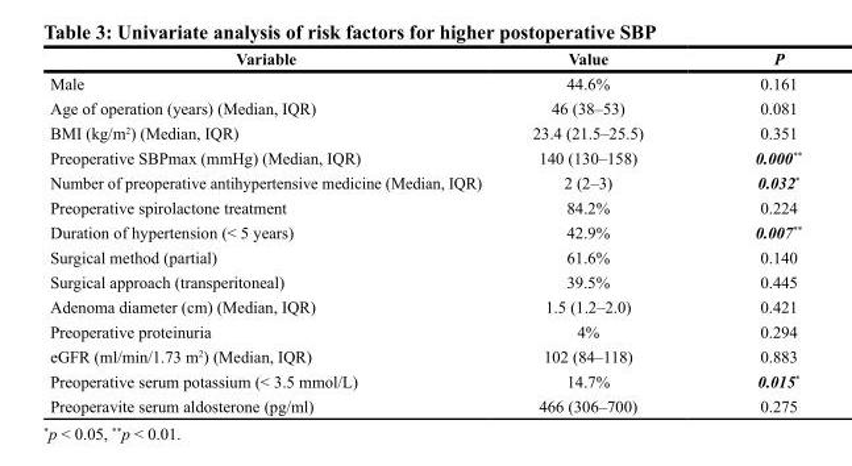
<table><thead><tr><td>Variable</td><td>Value</td><td>P</td></tr></thead><tbody><tr><td>Male</td><td>44.6%</td><td>0.161</td></tr><tr><td>Age of operation (years) (Median, IQR)</td><td>46 (38–53)</td><td>0.081</td></tr><tr><td>BMI (kg/m<sup>2</sup>) (Median, IQR)</td><td>23.4 (21.5–25.5)</td><td>0.351</td></tr><tr><td>Preoperative SBPmax (mmHg) (Median, IQR)</td><td>140 (130–158)</td><td>0.000**</td></tr><tr><td>Number of preoperative antihypertensive medicine (Median, IQR)</td><td>2 (2–3)</td><td>0.032*</td></tr><tr><td>Preoperative spirolactone treatment</td><td>84.2%</td><td>0.224</td></tr><tr><td>Duration of hypertension (&lt; 5 years)</td><td>42.9%</td><td>0.007**</td></tr><tr><td>Surgical method (partial)</td><td>61.6%</td><td>0.140</td></tr><tr><td>Surgical approach (transperitoneal)</td><td>39.5%</td><td>0.445</td></tr><tr><td>Adenoma diameter (cm) (Median, IQR)</td><td>1.5 (1.2–2.0)</td><td>0.421</td></tr><tr><td>Preoperative proteinuria</td><td>4%</td><td>0.294</td></tr><tr><td>eGFR (ml/min/1.73 m<sup>2</sup>) (Median, IQR)</td><td>102 (84–118)</td><td>0.883</td></tr><tr><td>Preoperative serum potassium (&lt; 3.5 mmol/L)</td><td>14.7%</td><td>0.015*</td></tr><tr><td>Preoperavite serum aldosterone (pg/ml)</td><td>466 (306–700)</td><td>0.275</td></tr></tbody></table>